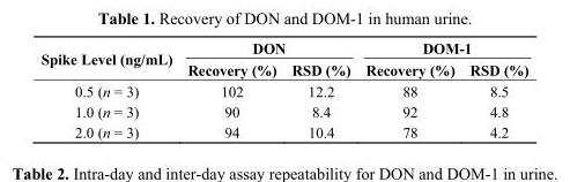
<table><thead><tr><td rowspan="2">Spike Level (ng/mL)</td><td colspan="2">DON</td><td colspan="2">DOM-1</td></tr><tr><td>Recovery (%)</td><td>RSD (%)</td><td>Recovery (%)</td><td>RSD (%)</td></tr></thead><tbody><tr><td>0.5 (n = 3)</td><td>102</td><td>12.2</td><td>88</td><td>8.5</td></tr><tr><td>1.0 (n = 3)</td><td>90</td><td>8.4</td><td>92</td><td>4.8</td></tr><tr><td>2.0 (n = 3)</td><td>94</td><td>10.4</td><td>78</td><td>4.2</td></tr></tbody></table>